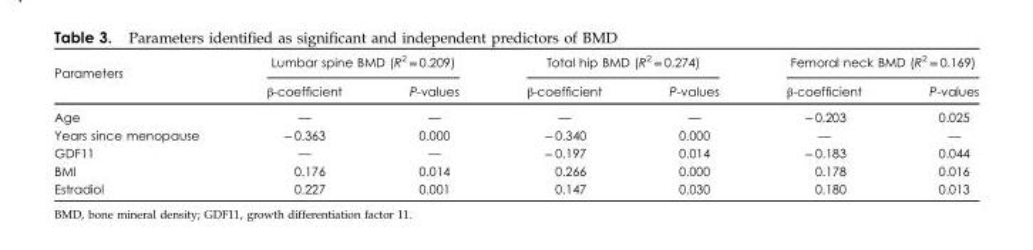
<table><thead><tr><td rowspan="2">Parameters</td><td colspan="2">Lumbar spine BMD (R<sup>2</sup> = 0.209)</td><td colspan="2">Total hip BMD (R<sup>2</sup> = 0.274)</td><td colspan="2">Femoral neck BMD (R<sup>2</sup> = 0.169)</td></tr><tr><td>β-coefficient</td><td>P-values</td><td>β-coefficient</td><td>P-values</td><td>β-coefficient</td><td>P-values</td></tr></thead><tbody><tr><td>Age</td><td>—</td><td>—</td><td>—</td><td>—</td><td>− 0.203</td><td>0.025</td></tr><tr><td>Years since menopause</td><td>− 0.363</td><td>0.000</td><td>− 0.340</td><td>0.000</td><td>—</td><td>—</td></tr><tr><td>GDF11</td><td>—</td><td>—</td><td>− 0.197</td><td>0.014</td><td>− 0.183</td><td>0.044</td></tr><tr><td>BMI</td><td>0.176</td><td>0.014</td><td>0.266</td><td>0.000</td><td>0.178</td><td>0.016</td></tr><tr><td>Estradiol</td><td>0.227</td><td>0.001</td><td>0.147</td><td>0.030</td><td>0.180</td><td>0.013</td></tr></tbody></table>